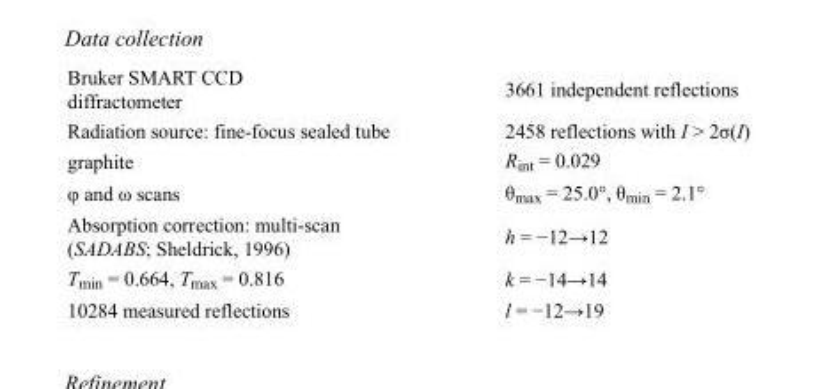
<table><tbody><tr><td>Bruker SMART CCD diffractometer</td><td>3661 independent reflections</td></tr><tr><td>Radiation source: fine-focus sealed tube</td><td>2458 reflections with I &gt; 2σ(I)</td></tr><tr><td>graphite</td><td>R<sub>int</sub> = 0.029</td></tr><tr><td>φ and ω scans</td><td>θ<sub>max</sub> = 25.0°, θ<sub>min</sub> = 2.1°</td></tr><tr><td>Absorption correction: multi-scan (SADABS; Sheldrick, 1996)</td><td>h = −12→12</td></tr><tr><td>T<sub>min</sub> = 0.664, T<sub>max</sub> = 0.816</td><td>k = −14→14</td></tr><tr><td>10284 measured reflections</td><td>l = −12→19</td></tr></tbody></table>